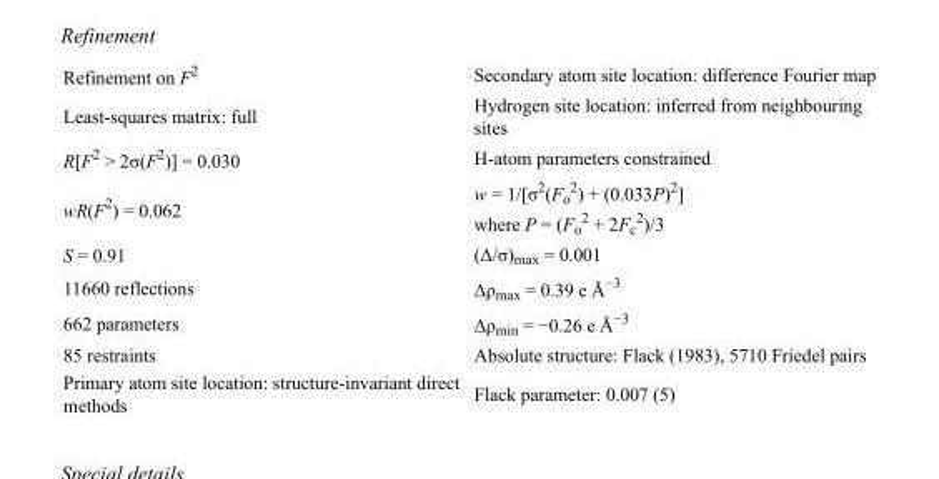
<table><tbody><tr><td>Refinement on F<sup>2</sup></td><td>Secondary atom site location: difference Fourier map</td></tr><tr><td>Least-squares matrix: full</td><td>Hydrogen site location: inferred from neighbouring sites</td></tr><tr><td>R[F<sup>2</sup> &gt; 2σ(F<sup>2</sup>)] = 0.030</td><td>H-atom parameters constrained</td></tr><tr><td>wR(F<sup>2</sup>) = 0.062</td><td>w = 1/[σ<sup>2</sup>(F<sub>o</sub> <sup>2</sup>) + (0.033P)<sup>2</sup>] where P = (F<sub>o</sub> <sup>2</sup> + 2F<sub>c</sub> <sup>2</sup>)/3</td></tr><tr><td>S = 0.91</td><td>(Δ/σ)<sub>max</sub> = 0.001</td></tr><tr><td>11660 reflections</td><td>Δρ<sub>max</sub> = 0.39 e Å<sup>−3</sup></td></tr><tr><td>662 parameters</td><td>Δρ<sub>min</sub> = −0.26 e Å<sup>−3</sup></td></tr><tr><td>85 restraints</td><td>Absolute structure: Flack (1983), 5710 Friedel pairs</td></tr><tr><td>Primary atom site location: structure-invariant direct methods</td><td>Flack parameter: 0.007 (5)</td></tr></tbody></table>